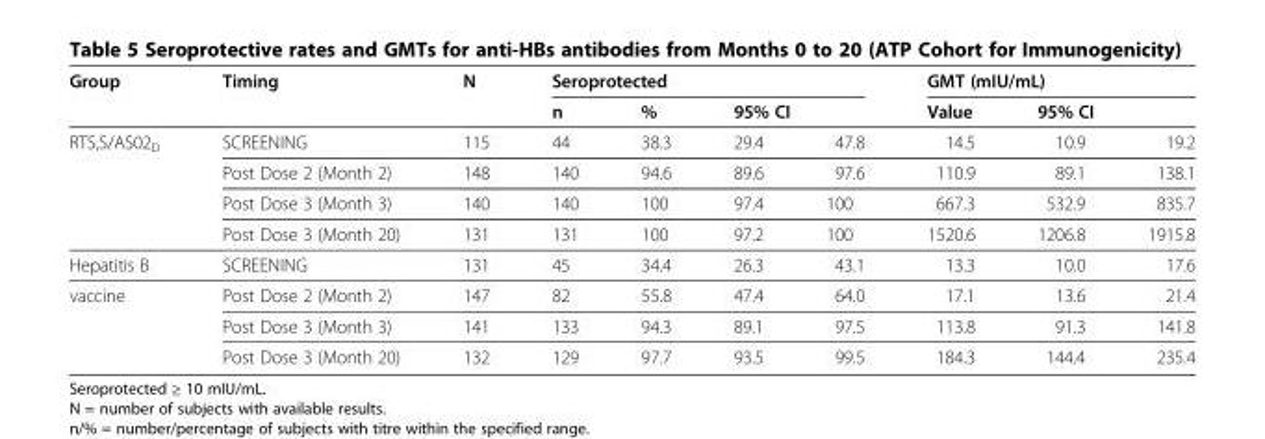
<table><thead><tr><td rowspan="2">Group</td><td rowspan="2">Timing</td><td rowspan="2">N</td><td colspan="4">Seroprotected</td><td colspan="3">GMT (mIU/mL)</td></tr><tr><td>n</td><td>%</td><td>95% CI</td><td></td><td>Value</td><td>95% CI</td><td></td></tr></thead><tbody><tr><td rowspan="4">RTS,S/AS02<sub>D</sub></td><td>SCREENING</td><td>115</td><td>44</td><td>38.3</td><td>29.4</td><td>47.8</td><td>14.5</td><td>10.9</td><td>19.2</td></tr><tr><td>Post Dose 2 (Month 2)</td><td>148</td><td>140</td><td>94.6</td><td>89.6</td><td>97.6</td><td>110.9</td><td>89.1</td><td>138.1</td></tr><tr><td>Post Dose 3 (Month 3)</td><td>140</td><td>140</td><td>100</td><td>97.4</td><td>100</td><td>667.3</td><td>532.9</td><td>835.7</td></tr><tr><td>Post Dose 3 (Month 20)</td><td>131</td><td>131</td><td>100</td><td>97.2</td><td>100</td><td>1520.6</td><td>1206.8</td><td>1915.8</td></tr><tr><td>Hepatitis B</td><td>SCREENING</td><td>131</td><td>45</td><td>34.4</td><td>26.3</td><td>43.1</td><td>13.3</td><td>10.0</td><td>17.6</td></tr><tr><td rowspan="3">vaccine</td><td>Post Dose 2 (Month 2)</td><td>147</td><td>82</td><td>55.8</td><td>47.4</td><td>64.0</td><td>17.1</td><td>13.6</td><td>21.4</td></tr><tr><td>Post Dose 3 (Month 3)</td><td>141</td><td>133</td><td>94.3</td><td>89.1</td><td>97.5</td><td>113.8</td><td>91.3</td><td>141.8</td></tr><tr><td>Post Dose 3 (Month 20)</td><td>132</td><td>129</td><td>97.7</td><td>93.5</td><td>99.5</td><td>184.3</td><td>144.4</td><td>235.4</td></tr></tbody></table>